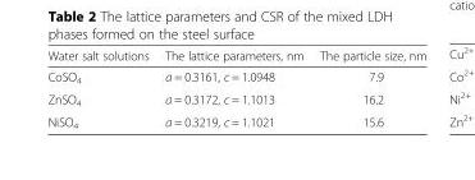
<table><thead><tr><td>Water salt solutions</td><td>The lattice parameters, nm</td><td>The particle size, nm</td></tr></thead><tbody><tr><td>CoSO<sub>4</sub></td><td>a = 0.3161, c = 1.0948</td><td>7.9</td></tr><tr><td>ZnSO<sub>4</sub></td><td>a = 0.3172, c = 1.1013</td><td>16.2</td></tr><tr><td>NiSO<sub>4</sub></td><td>a = 0.3219, c = 1.1021</td><td>15.6</td></tr></tbody></table>